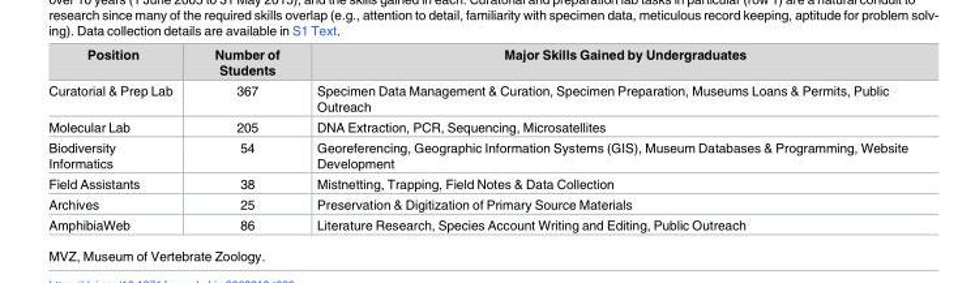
<table><thead><tr><td>Position</td><td>Number of Students</td><td>Major Skills Gained by Undergraduates</td></tr></thead><tbody><tr><td>Curatorial &amp; Prep Lab</td><td>367</td><td>Specimen Data Management &amp; Curation, Specimen Preparation, Museums Loans &amp; Permits, Public Outreach</td></tr><tr><td>Molecular Lab</td><td>205</td><td>DNA Extraction, PCR, Sequencing, Microsatellites</td></tr><tr><td>Biodiversity Informatics</td><td>54</td><td>Georeferencing, Geographic Information Systems (GIS), Museum Databases &amp; Programming, Website Development</td></tr><tr><td>Field Assistants</td><td>38</td><td>Mistnetting, Trapping, Field Notes &amp; Data Collection</td></tr><tr><td>Archives</td><td>25</td><td>Preservation &amp; Digitization of Primary Source Materials</td></tr><tr><td>AmphibiaWeb</td><td>86</td><td>Literature Research, Species Account Writing and Editing, Public Outreach</td></tr></tbody></table>